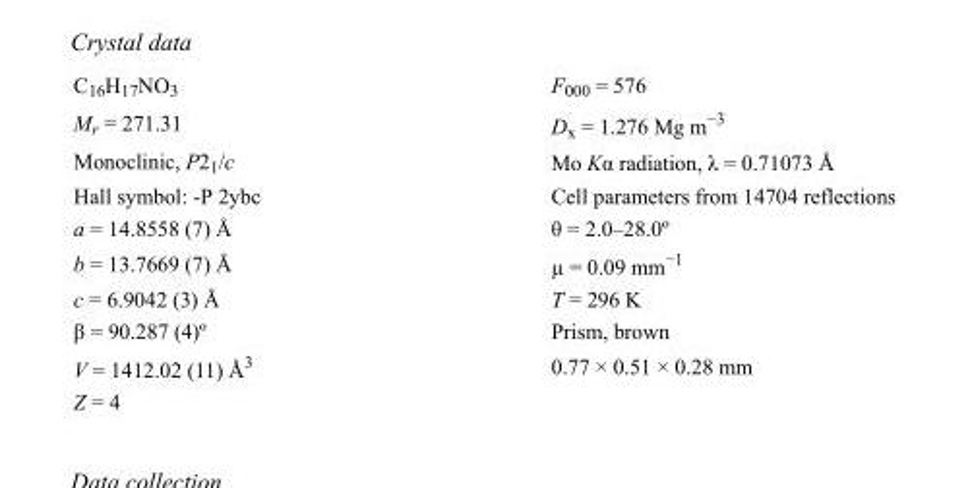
<table><tbody><tr><td>C<sub>16</sub>H<sub>17</sub>NO<sub>3</sub></td><td>F000 = 576</td></tr><tr><td>M<sub>r</sub> = 271.31</td><td>D<sub>x</sub> = 1.276 Mg m<sup>−3</sup></td></tr><tr><td>Monoclinic, P2<sub>1</sub>/c</td><td>Mo Kα radiation, λ = 0.71073 Å</td></tr><tr><td>Hall symbol: -P 2ybc</td><td>Cell parameters from 14704 reflections</td></tr><tr><td>a = 14.8558 (7) Å</td><td>θ = 2.0–28.0º</td></tr><tr><td>b = 13.7669 (7) Å</td><td>µ = 0.09 mm<sup>−1</sup></td></tr><tr><td>c = 6.9042 (3) Å</td><td>T = 296 K</td></tr><tr><td>β = 90.287 (4)º</td><td>Prism, brown</td></tr><tr><td>V = 1412.02 (11) Å<sup>3</sup></td><td>0.77 × 0.51 × 0.28 mm</td></tr><tr><td>Z = 4</td><td></td></tr></tbody></table>